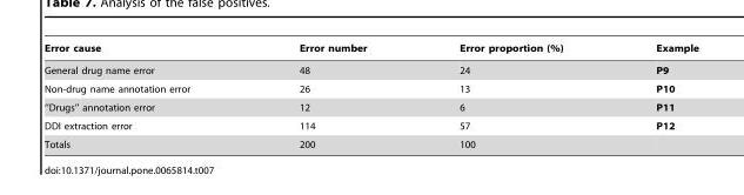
<table><thead><tr><td>Error cause</td><td>Error number</td><td>Error proportion (%)</td><td>Example</td></tr></thead><tbody><tr><td>General drug name error</td><td>48</td><td>24</td><td>P9</td></tr><tr><td>Non-drug name annotation error</td><td>26</td><td>13</td><td>P10</td></tr><tr><td>‘‘Drugs’’ annotation error</td><td>12</td><td>6</td><td>P11</td></tr><tr><td>DDI extraction error</td><td>114</td><td>57</td><td>P12</td></tr><tr><td>Totals</td><td>200</td><td>100</td><td></td></tr></tbody></table>